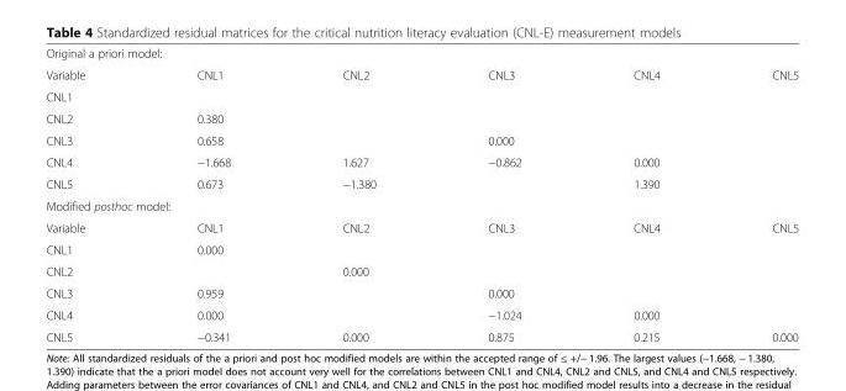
<table><tbody><tr><td colspan="6">Original a priori model:</td></tr><tr><td>Variable</td><td>CNL1</td><td>CNL2</td><td>CNL3</td><td>CNL4</td><td>CNL5</td></tr><tr><td colspan="6">CNL1</td></tr><tr><td>CNL2</td><td>0.380</td><td></td><td></td><td></td><td></td></tr><tr><td>CNL3</td><td>0.658</td><td></td><td>0.000</td><td></td><td></td></tr><tr><td>CNL4</td><td>−1.668</td><td>1.627</td><td>−0.862</td><td>0.000</td><td></td></tr><tr><td>CNL5</td><td>0.673</td><td>−1.380</td><td></td><td>1.390</td><td></td></tr><tr><td colspan="6">Modified posthoc model:</td></tr><tr><td>Variable</td><td>CNL1</td><td>CNL2</td><td>CNL3</td><td>CNL4</td><td>CNL5</td></tr><tr><td>CNL1</td><td>0.000</td><td></td><td></td><td></td><td></td></tr><tr><td>CNL2</td><td></td><td>0.000</td><td></td><td></td><td></td></tr><tr><td>CNL3</td><td>0.959</td><td></td><td>0.000</td><td></td><td></td></tr><tr><td>CNL4</td><td>0.000</td><td></td><td>−1.024</td><td>0.000</td><td></td></tr><tr><td>CNL5</td><td>−0.341</td><td>0.000</td><td>0.875</td><td>0.215</td><td>0.000</td></tr></tbody></table>